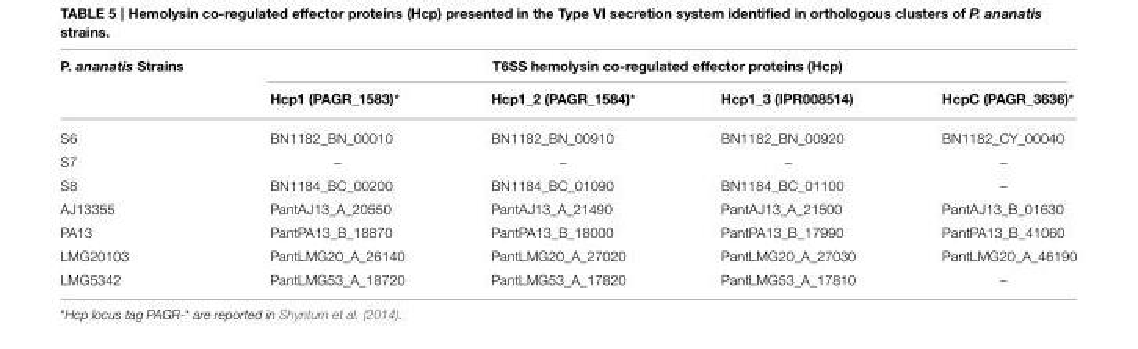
<table><thead><tr><td rowspan="2">P. ananatis Strains</td><td colspan="4">T6SS hemolysin co-regulated effector proteins (Hcp)</td></tr><tr><td>Hcp1 (PAGR_1583)*</td><td>Hcp1_2 (PAGR_1584)*</td><td>Hcp1_3 (IPR008514)</td><td>HcpC (PAGR_3636)*</td></tr></thead><tbody><tr><td>S6</td><td>BN1182_BN_00010</td><td>BN1182_BN_00910</td><td>BN1182_BN_00920</td><td>BN1182_CY_00040</td></tr><tr><td>S7</td><td>–</td><td>–</td><td>–</td><td>–</td></tr><tr><td>S8</td><td>BN1184_BC_00200</td><td>BN1184_BC_01090</td><td>BN1184_BC_01100</td><td>–</td></tr><tr><td>AJ13355</td><td>PantAJ13_A_20550</td><td>PantAJ13_A_21490</td><td>PantAJ13_A_21500</td><td>PantAJ13_B_01630</td></tr><tr><td>PA13</td><td>PantPA13_B_18870</td><td>PantPA13_B_18000</td><td>PantPA13_B_17990</td><td>PantPA13_B_41060</td></tr><tr><td>LMG20103</td><td>PantLMG20_A_26140</td><td>PantLMG20_A_27020</td><td>PantLMG20_A_27030</td><td>PantLMG20_A_46190</td></tr><tr><td>LMG5342</td><td>PantLMG53_A_18720</td><td>PantLMG53_A_17820</td><td>PantLMG53_A_17810</td><td>–</td></tr></tbody></table>